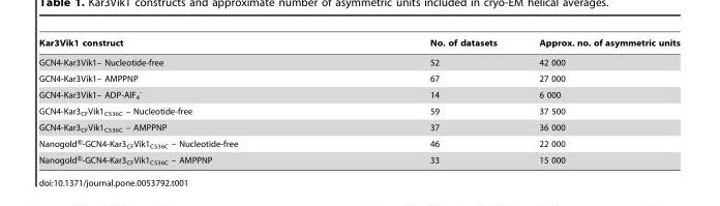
<table><thead><tr><td>Kar3Vik1 construct</td><td>No. of datasets</td><td>Approx. no. of asymmetric units</td></tr></thead><tbody><tr><td>GCN4-Kar3Vik1– Nucleotide-free</td><td>52</td><td>42 000</td></tr><tr><td>GCN4-Kar3Vik1– AMPPNP</td><td>67</td><td>27 000</td></tr><tr><td>GCN4-Kar3Vik1– ADP-AlF<sub>4</sub> <sup>-</sup></td><td>14</td><td>6 000</td></tr><tr><td>GCN4-Kar3<sub>CF</sub>Vik1<sub>C536C</sub> – Nucleotide-free</td><td>59</td><td>37 500</td></tr><tr><td>GCN4-Kar3<sub>CF</sub>Vik1<sub>C536C</sub> – AMPPNP</td><td>37</td><td>36 000</td></tr><tr><td>Nanogold®-GCN4-Kar3<sub>CF</sub>Vik1<sub>C536C</sub> – Nucleotide-free</td><td>46</td><td>22 000</td></tr><tr><td>Nanogold®-GCN4-Kar3<sub>CF</sub>Vik1<sub>C536C</sub> – AMPPNP</td><td>33</td><td>15 000</td></tr></tbody></table>